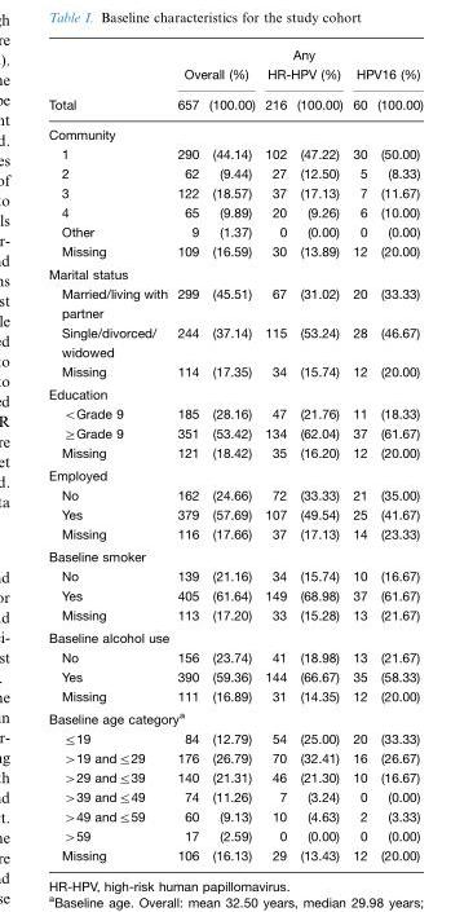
<table><thead><tr><td rowspan="2">Total</td><td colspan="2">Overall (%)</td><td colspan="2">Any HR-HPV (%)</td><td colspan="2">HPV16 (%)</td></tr><tr><td>657</td><td>(100.00)</td><td>216</td><td>(100.00)</td><td>60</td><td>(100.00)</td></tr></thead><tbody><tr><td colspan="7">Community</td></tr><tr><td>1</td><td>290</td><td>(44.14)</td><td>102</td><td>(47.22)</td><td>30</td><td>(50.00)</td></tr><tr><td>2</td><td>62</td><td>(9.44)</td><td>27</td><td>(12.50)</td><td>5</td><td>(8.33)</td></tr><tr><td>3</td><td>122</td><td>(18.57)</td><td>37</td><td>(17.13)</td><td>7</td><td>(11.67)</td></tr><tr><td>4</td><td>65</td><td>(9.89)</td><td>20</td><td>(9.26)</td><td>6</td><td>(10.00)</td></tr><tr><td>Other</td><td>9</td><td>(1.37)</td><td>0</td><td>(0.00)</td><td>0</td><td>(0.00)</td></tr><tr><td>Missing</td><td>109</td><td>(16.59)</td><td>30</td><td>(13.89)</td><td>12</td><td>(20.00)</td></tr><tr><td colspan="7">Marital status</td></tr><tr><td>Married/living with partner</td><td>299</td><td>(45.51)</td><td>67</td><td>(31.02)</td><td>20</td><td>(33.33)</td></tr><tr><td>Single/divorced/ widowed</td><td>244</td><td>(37.14)</td><td>115</td><td>(53.24)</td><td>28</td><td>(46.67)</td></tr><tr><td>Missing</td><td>114</td><td>(17.35)</td><td>34</td><td>(15.74)</td><td>12</td><td>(20.00)</td></tr><tr><td colspan="7">Education</td></tr><tr><td>&lt;Grade 9</td><td>185</td><td>(28.16)</td><td>47</td><td>(21.76)</td><td>11</td><td>(18.33)</td></tr><tr><td>≥Grade 9</td><td>351</td><td>(53.42)</td><td>134</td><td>(62.04)</td><td>37</td><td>(61.67)</td></tr><tr><td>Missing</td><td>121</td><td>(18.42)</td><td>35</td><td>(16.20)</td><td>12</td><td>(20.00)</td></tr><tr><td colspan="7">Employed</td></tr><tr><td>No</td><td>162</td><td>(24.66)</td><td>72</td><td>(33.33)</td><td>21</td><td>(35.00)</td></tr><tr><td>Yes</td><td>379</td><td>(57.69)</td><td>107</td><td>(49.54)</td><td>25</td><td>(41.67)</td></tr><tr><td>Missing</td><td>116</td><td>(17.66)</td><td>37</td><td>(17.13)</td><td>14</td><td>(23.33)</td></tr><tr><td colspan="7">Baseline smoker</td></tr><tr><td>No</td><td>139</td><td>(21.16)</td><td>34</td><td>(15.74)</td><td>10</td><td>(16.67)</td></tr><tr><td>Yes</td><td>405</td><td>(61.64)</td><td>149</td><td>(68.98)</td><td>37</td><td>(61.67)</td></tr><tr><td>Missing</td><td>113</td><td>(17.20)</td><td>33</td><td>(15.28)</td><td>13</td><td>(21.67)</td></tr><tr><td colspan="7">Baseline alcohol use</td></tr><tr><td>No</td><td>156</td><td>(23.74)</td><td>41</td><td>(18.98)</td><td>13</td><td>(21.67)</td></tr><tr><td>Yes</td><td>390</td><td>(59.36)</td><td>144</td><td>(66.67)</td><td>35</td><td>(58.33)</td></tr><tr><td>Missing</td><td>111</td><td>(16.89)</td><td>31</td><td>(14.35)</td><td>12</td><td>(20.00)</td></tr><tr><td colspan="7">Baseline age category<sup>a</sup></td></tr><tr><td>≤19</td><td>84</td><td>(12.79)</td><td>54</td><td>(25.00)</td><td>20</td><td>(33.33)</td></tr><tr><td>&gt;19 and≤29</td><td>176</td><td>(26.79)</td><td>70</td><td>(32.41)</td><td>16</td><td>(26.67)</td></tr><tr><td>&gt;29 and≤39</td><td>140</td><td>(21.31)</td><td>46</td><td>(21.30)</td><td>10</td><td>(16.67)</td></tr><tr><td>&gt;39 and≤49</td><td>74</td><td>(11.26)</td><td>7</td><td>(3.24)</td><td>0</td><td>(0.00)</td></tr><tr><td>&gt;49 and≤59</td><td>60</td><td>(9.13)</td><td>10</td><td>(4.63)</td><td>2</td><td>(3.33)</td></tr><tr><td>&gt;59</td><td>17</td><td>(2.59)</td><td>0</td><td>(0.00)</td><td>0</td><td>(0.00)</td></tr><tr><td>Missing</td><td>106</td><td>(16.13)</td><td>29</td><td>(13.43)</td><td>12</td><td>(20.00)</td></tr></tbody></table>